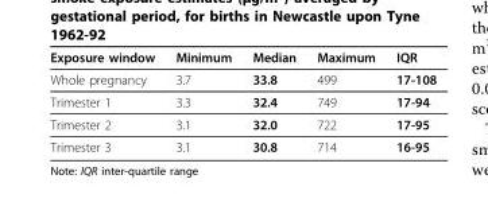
<table><thead><tr><td>Exposure window</td><td>Minimum</td><td>Median</td><td>Maximum</td><td>IQR</td></tr></thead><tbody><tr><td>Whole pregnancy</td><td>3.7</td><td>33.8</td><td>499</td><td>17-108</td></tr><tr><td>Trimester 1</td><td>3.3</td><td>32.4</td><td>749</td><td>17-94</td></tr><tr><td>Trimester 2</td><td>3.1</td><td>32.0</td><td>722</td><td>17-95</td></tr><tr><td>Trimester 3</td><td>3.1</td><td>30.8</td><td>714</td><td>16-95</td></tr></tbody></table>